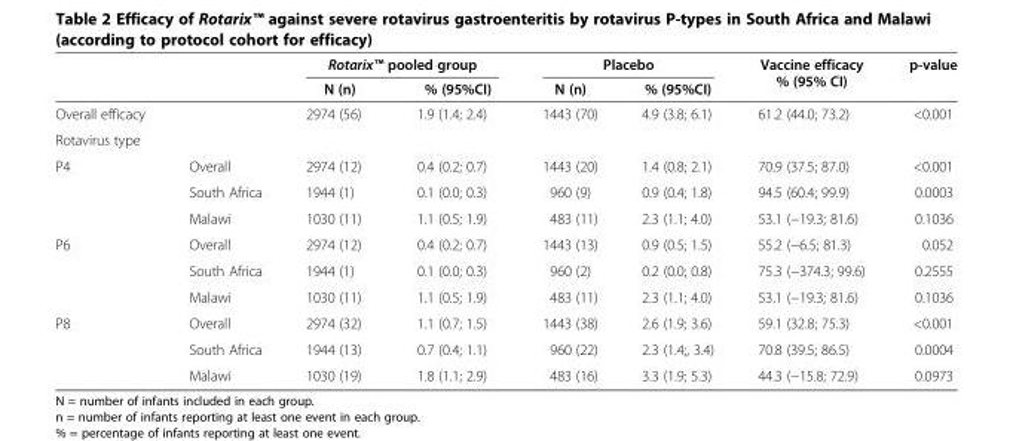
<table><thead><tr><td rowspan="2"></td><td rowspan="2"></td><td colspan="2">Rotarix™ pooled group</td><td colspan="2">Placebo</td><td rowspan="2">Vaccine efficacy % (95% CI)</td><td rowspan="2">p-value</td></tr><tr><td>N (n)</td><td>% (95%CI)</td><td>N (n)</td><td>% (95%CI)</td></tr></thead><tbody><tr><td>Overall efficacy</td><td></td><td>2974 (56)</td><td>1.9 (1.4; 2.4)</td><td>1443 (70)</td><td>4.9 (3.8; 6.1)</td><td>61.2 (44.0; 73.2)</td><td>&lt;0.001</td></tr><tr><td colspan="8">Rotavirus type</td></tr><tr><td rowspan="3">P4</td><td>Overall</td><td>2974 (12)</td><td>0.4 (0.2; 0.7)</td><td>1443 (20)</td><td>1.4 (0.8; 2.1)</td><td>70.9 (37.5; 87.0)</td><td>&lt;0.001</td></tr><tr><td>South Africa</td><td>1944 (1)</td><td>0.1 (0.0; 0.3)</td><td>960 (9)</td><td>0.9 (0.4; 1.8)</td><td>94.5 (60.4; 99.9)</td><td>0.0003</td></tr><tr><td>Malawi</td><td>1030 (11)</td><td>1.1 (0.5; 1.9)</td><td>483 (11)</td><td>2.3 (1.1; 4.0)</td><td>53.1 (−19.3; 81.6)</td><td>0.1036</td></tr><tr><td rowspan="3">P6</td><td>Overall</td><td>2974 (12)</td><td>0.4 (0.2; 0.7)</td><td>1443 (13)</td><td>0.9 (0.5; 1.5)</td><td>55.2 (−6.5; 81.3)</td><td>0.052</td></tr><tr><td>South Africa</td><td>1944 (1)</td><td>0.1 (0.0; 0.3)</td><td>960 (2)</td><td>0.2 (0.0; 0.8)</td><td>75.3 (−374.3; 99.6)</td><td>0.2555</td></tr><tr><td>Malawi</td><td>1030 (11)</td><td>1.1 (0.5; 1.9)</td><td>483 (11)</td><td>2.3 (1.1; 4.0)</td><td>53.1 (−19.3; 81.6)</td><td>0.1036</td></tr><tr><td rowspan="3">P8</td><td>Overall</td><td>2974 (32)</td><td>1.1 (0.7; 1.5)</td><td>1443 (38)</td><td>2.6 (1.9; 3.6)</td><td>59.1 (32.8; 75.3)</td><td>&lt;0.001</td></tr><tr><td>South Africa</td><td>1944 (13)</td><td>0.7 (0.4; 1.1)</td><td>960 (22)</td><td>2.3 (1.4;, 3.4)</td><td>70.8 (39.5; 86.5)</td><td>0.0004</td></tr><tr><td>Malawi</td><td>1030 (19)</td><td>1.8 (1.1; 2.9)</td><td>483 (16)</td><td>3.3 (1.9; 5.3)</td><td>44.3 (−15.8; 72.9)</td><td>0.0973</td></tr></tbody></table>